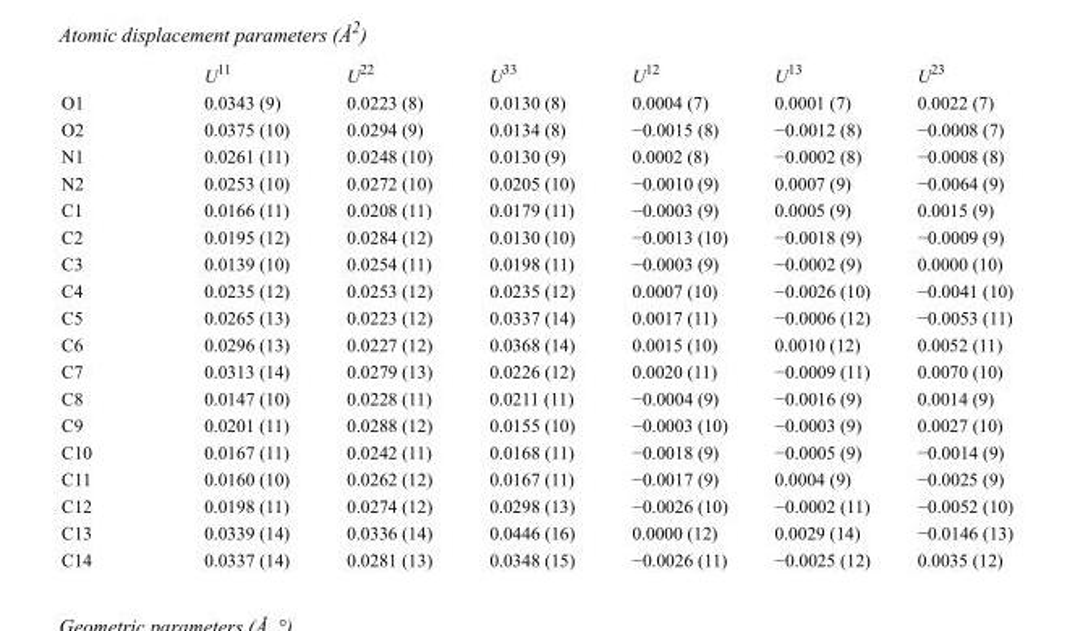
<table><thead><tr><td></td><td>U<sup>11</sup></td><td>U<sup>22</sup></td><td>U<sup>33</sup></td><td>U<sup>12</sup></td><td>U<sup>13</sup></td><td>U<sup>23</sup></td></tr></thead><tbody><tr><td>O1</td><td>0.0343 (9)</td><td>0.0223 (8)</td><td>0.0130 (8)</td><td>0.0004 (7)</td><td>0.0001 (7)</td><td>0.0022 (7)</td></tr><tr><td>O2</td><td>0.0375 (10)</td><td>0.0294 (9)</td><td>0.0134 (8)</td><td>−0.0015 (8)</td><td>−0.0012 (8)</td><td>−0.0008 (7)</td></tr><tr><td>N1</td><td>0.0261 (11)</td><td>0.0248 (10)</td><td>0.0130 (9)</td><td>0.0002 (8)</td><td>−0.0002 (8)</td><td>−0.0008 (8)</td></tr><tr><td>N2</td><td>0.0253 (10)</td><td>0.0272 (10)</td><td>0.0205 (10)</td><td>−0.0010 (9)</td><td>0.0007 (9)</td><td>−0.0064 (9)</td></tr><tr><td>C1</td><td>0.0166 (11)</td><td>0.0208 (11)</td><td>0.0179 (11)</td><td>−0.0003 (9)</td><td>0.0005 (9)</td><td>0.0015 (9)</td></tr><tr><td>C2</td><td>0.0195 (12)</td><td>0.0284 (12)</td><td>0.0130 (10)</td><td>−0.0013 (10)</td><td>−0.0018 (9)</td><td>−0.0009 (9)</td></tr><tr><td>C3</td><td>0.0139 (10)</td><td>0.0254 (11)</td><td>0.0198 (11)</td><td>−0.0003 (9)</td><td>−0.0002 (9)</td><td>0.0000 (10)</td></tr><tr><td>C4</td><td>0.0235 (12)</td><td>0.0253 (12)</td><td>0.0235 (12)</td><td>0.0007 (10)</td><td>−0.0026 (10)</td><td>−0.0041 (10)</td></tr><tr><td>C5</td><td>0.0265 (13)</td><td>0.0223 (12)</td><td>0.0337 (14)</td><td>0.0017 (11)</td><td>−0.0006 (12)</td><td>−0.0053 (11)</td></tr><tr><td>C6</td><td>0.0296 (13)</td><td>0.0227 (12)</td><td>0.0368 (14)</td><td>0.0015 (10)</td><td>0.0010 (12)</td><td>0.0052 (11)</td></tr><tr><td>C7</td><td>0.0313 (14)</td><td>0.0279 (13)</td><td>0.0226 (12)</td><td>0.0020 (11)</td><td>−0.0009 (11)</td><td>0.0070 (10)</td></tr><tr><td>C8</td><td>0.0147 (10)</td><td>0.0228 (11)</td><td>0.0211 (11)</td><td>−0.0004 (9)</td><td>−0.0016 (9)</td><td>0.0014 (9)</td></tr><tr><td>C9</td><td>0.0201 (11)</td><td>0.0288 (12)</td><td>0.0155 (10)</td><td>−0.0003 (10)</td><td>−0.0003 (9)</td><td>0.0027 (10)</td></tr><tr><td>C10</td><td>0.0167 (11)</td><td>0.0242 (11)</td><td>0.0168 (11)</td><td>−0.0018 (9)</td><td>−0.0005 (9)</td><td>−0.0014 (9)</td></tr><tr><td>C11</td><td>0.0160 (10)</td><td>0.0262 (12)</td><td>0.0167 (11)</td><td>−0.0017 (9)</td><td>0.0004 (9)</td><td>−0.0025 (9)</td></tr><tr><td>C12</td><td>0.0198 (11)</td><td>0.0274 (12)</td><td>0.0298 (13)</td><td>−0.0026 (10)</td><td>−0.0002 (11)</td><td>−0.0052 (10)</td></tr><tr><td>C13</td><td>0.0339 (14)</td><td>0.0336 (14)</td><td>0.0446 (16)</td><td>0.0000 (12)</td><td>0.0029 (14)</td><td>−0.0146 (13)</td></tr><tr><td>C14</td><td>0.0337 (14)</td><td>0.0281 (13)</td><td>0.0348 (15)</td><td>−0.0026 (11)</td><td>−0.0025 (12)</td><td>0.0035 (12)</td></tr></tbody></table>